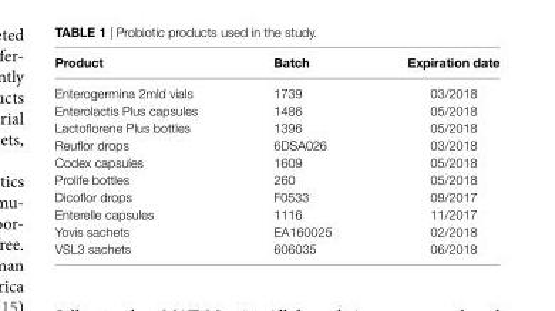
<table><thead><tr><td>Product</td><td>Batch</td><td>expiration date</td></tr></thead><tbody><tr><td>Enterogermina 2mld vials</td><td>1739</td><td>03/2018</td></tr><tr><td>Enterolactis Plus capsules</td><td>1486</td><td>05/2018</td></tr><tr><td>Lactoflorene Plus bottles</td><td>1396</td><td>05/2018</td></tr><tr><td>Reuflor drops</td><td>6DSA026</td><td>03/2018</td></tr><tr><td>Codex capsules</td><td>1609</td><td>05/2018</td></tr><tr><td>Prolife bottles</td><td>260</td><td>05/2018</td></tr><tr><td>Dicoflor drops</td><td>F0533</td><td>09/2017</td></tr><tr><td>Enterelle capsules</td><td>1116</td><td>11/2017</td></tr><tr><td>Yovis sachets</td><td>EA160025</td><td>02/2018</td></tr><tr><td>VSL3 sachets</td><td>606035</td><td>06/2018</td></tr></tbody></table>